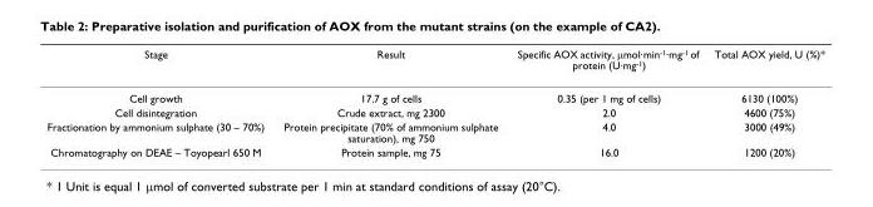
<table><thead><tr><td>Stage</td><td>Result</td><td>Specific AOX activity, μmol·min<sup>-1</sup>·mg<sup>-1</sup> of protein (U·mg<sup>-1</sup>)</td><td>Total AOX yield, U (%)*</td></tr></thead><tbody><tr><td>Cell growth</td><td>17.7 g of cells</td><td>0.35 (per 1 mg of cells)</td><td>6130 (100%)</td></tr><tr><td>Cell disintegration</td><td>Crude extract, mg 2300</td><td>2.0</td><td>4600 (75%)</td></tr><tr><td>Fractionation by ammonium sulphate (30 – 70%)</td><td>Protein precipitate (70% of ammonium sulphate saturation), mg 750</td><td>4.0</td><td>3000 (49%)</td></tr><tr><td>Chromatography on DEAE – Toyopearl 650 M</td><td>Protein sample, mg 75</td><td>16.0</td><td>1200 (20%)</td></tr></tbody></table>